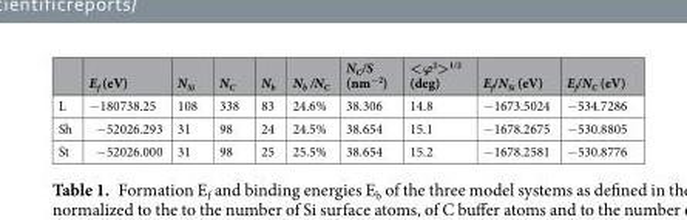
<table><thead><tr><td></td><td>E<sub>f</sub> (eV)</td><td>N<sub>Si</sub></td><td>N<sub>C</sub></td><td>N<sub>b</sub></td><td>N<sub>b</sub> /N<sub>C</sub></td><td>N<sub>C</sub>/S (nm<sup>−2</sup>)</td><td>&lt;ϕ<sup>2</sup>&gt;<sup>1/2</sup> (deg)</td><td>E<sub>f</sub>/N<sub>Si</sub> (eV)</td><td>E<sub>f</sub>/N<sub>C</sub> (eV)</td></tr></thead><tbody><tr><td>L</td><td>−180738.25</td><td>108</td><td>338</td><td>83</td><td>24.6%</td><td>38.306</td><td>14.8</td><td>−1673.5024</td><td>−534.7286</td></tr><tr><td>Sh</td><td>−52026.293</td><td>31</td><td>98</td><td>24</td><td>24.5%</td><td>38.654</td><td>15.1</td><td>−1678.2675</td><td>−530.8805</td></tr><tr><td>St</td><td>−52026.000</td><td>31</td><td>98</td><td>25</td><td>25.5%</td><td>38.654</td><td>15.2</td><td>−1678.2581</td><td>−530.8776</td></tr></tbody></table>